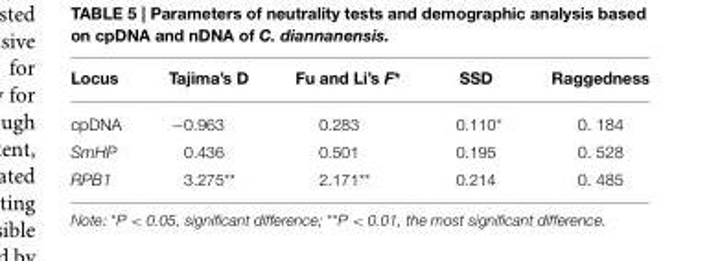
<table><thead><tr><td>Locus</td><td>Tajima’s D</td><td>Fu and Li’s F*</td><td>SSD</td><td>Raggedness</td></tr></thead><tbody><tr><td>cpDNA</td><td>−0.963</td><td>0.283</td><td>0.110*</td><td>0. 184</td></tr><tr><td>SmHP</td><td>0.436</td><td>0.501</td><td>0.195</td><td>0. 528</td></tr><tr><td>RPB1</td><td>3.275**</td><td>2.171**</td><td>0.214</td><td>0. 485</td></tr></tbody></table>